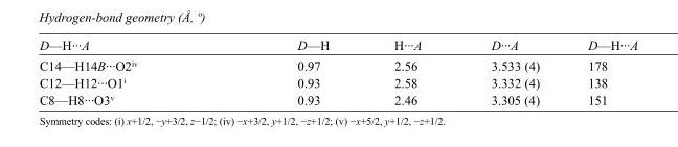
<table><tbody><tr><td>D—H···A</td><td>D—H</td><td>H···A</td><td>D···A</td><td>D—H···A</td></tr><tr><td>C14—H14B···O2<sup>iv</sup></td><td>0.97</td><td>2.56</td><td>3.533 (4)</td><td>178</td></tr><tr><td>C12—H12···O1<sup>i</sup></td><td>0.93</td><td>2.58</td><td>3.332 (4)</td><td>138</td></tr><tr><td>C8—H8···O3<sup>v</sup></td><td>0.93</td><td>2.46</td><td>3.305 (4)</td><td>151</td></tr></tbody></table>